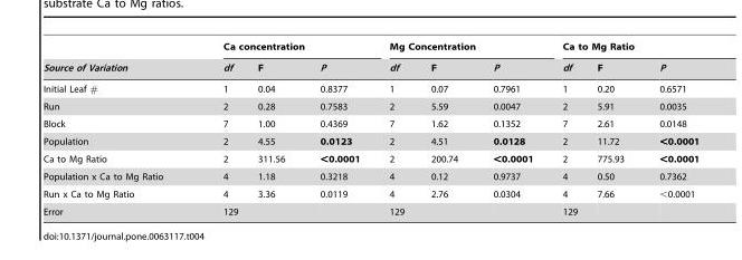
<table><thead><tr><td rowspan="2">Source of Variation</td><td colspan="3">Ca concentration</td><td colspan="3">Mg Concentration</td><td colspan="3">Ca to Mg Ratio</td></tr><tr><td>df</td><td>F</td><td>P</td><td>df</td><td>F</td><td>P</td><td>df</td><td>F</td><td>P</td></tr></thead><tbody><tr><td>Initial Leaf #</td><td>1</td><td>0.04</td><td>0.8377</td><td>1</td><td>0.07</td><td>0.7961</td><td>1</td><td>0.20</td><td>0.6571</td></tr><tr><td>Run</td><td>2</td><td>0.28</td><td>0.7583</td><td>2</td><td>5.59</td><td>0.0047</td><td>2</td><td>5.91</td><td>0.0035</td></tr><tr><td>Block</td><td>7</td><td>1.00</td><td>0.4369</td><td>7</td><td>1.62</td><td>0.1352</td><td>7</td><td>2.61</td><td>0.0148</td></tr><tr><td>Population</td><td>2</td><td>4.55</td><td>0.0123</td><td>2</td><td>4.51</td><td>0.0128</td><td>2</td><td>11.72</td><td>&lt;0.0001</td></tr><tr><td>Ca to Mg Ratio</td><td>2</td><td>311.56</td><td>&lt;0.0001</td><td>2</td><td>200.74</td><td>&lt;0.0001</td><td>2</td><td>775.93</td><td>&lt;0.0001</td></tr><tr><td>Population x Ca to Mg Ratio</td><td>4</td><td>1.18</td><td>0.3218</td><td>4</td><td>0.12</td><td>0.9737</td><td>4</td><td>0.50</td><td>0.7362</td></tr><tr><td>Run x Ca to Mg Ratio</td><td>4</td><td>3.36</td><td>0.0119</td><td>4</td><td>2.76</td><td>0.0304</td><td>4</td><td>7.66</td><td>&lt;0.0001</td></tr><tr><td>Error</td><td>129</td><td></td><td></td><td>129</td><td></td><td></td><td>129</td><td></td><td></td></tr></tbody></table>